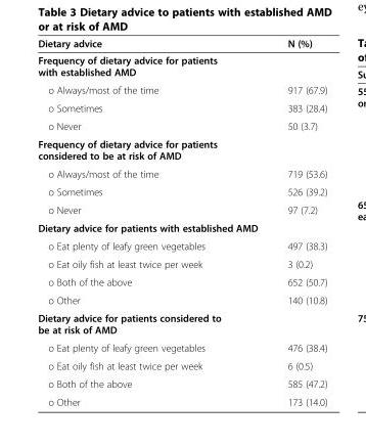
<table><thead><tr><td>Dietary advice</td><td>N (%)</td></tr></thead><tbody><tr><td colspan="2">Frequency of dietary advice for patients with established AMD</td></tr><tr><td>o Always/most of the time</td><td>917 (67.9)</td></tr><tr><td>o Sometimes</td><td>383 (28.4)</td></tr><tr><td>o Never</td><td>50 (3.7)</td></tr><tr><td colspan="2">Frequency of dietary advice for patients considered to be at risk of AMD</td></tr><tr><td>o Always/most of the time</td><td>719 (53.6)</td></tr><tr><td>o Sometimes</td><td>526 (39.2)</td></tr><tr><td>o Never</td><td>97 (7.2)</td></tr><tr><td colspan="2">Dietary advice for patients with established AMD</td></tr><tr><td>o Eat plenty of leafy green vegetables</td><td>497 (38.3)</td></tr><tr><td>o Eat oily fish at least twice per week</td><td>3 (0.2)</td></tr><tr><td>o Both of the above</td><td>652 (50.7)</td></tr><tr><td>o Other</td><td>140 (10.8)</td></tr><tr><td colspan="2">Dietary advice for patients considered to be at risk of AMD</td></tr><tr><td>o Eat plenty of leafy green vegetables</td><td>476 (38.4)</td></tr><tr><td>o Eat oily fish at least twice per week</td><td>6 (0.5)</td></tr><tr><td>o Both of the above</td><td>585 (47.2)</td></tr><tr><td>o Other</td><td>173 (14.0)</td></tr></tbody></table>